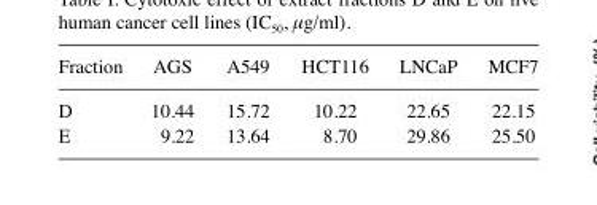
<table><thead><tr><td>Fraction</td><td>AGS</td><td>A549</td><td>HCT116</td><td>LNCaP</td><td>MCF7</td></tr></thead><tbody><tr><td>D</td><td>10.44</td><td>15.72</td><td>10.22</td><td>22.65</td><td>22.15</td></tr><tr><td>E</td><td>9.22</td><td>13.64</td><td>8.70</td><td>29.86</td><td>25.50</td></tr></tbody></table>